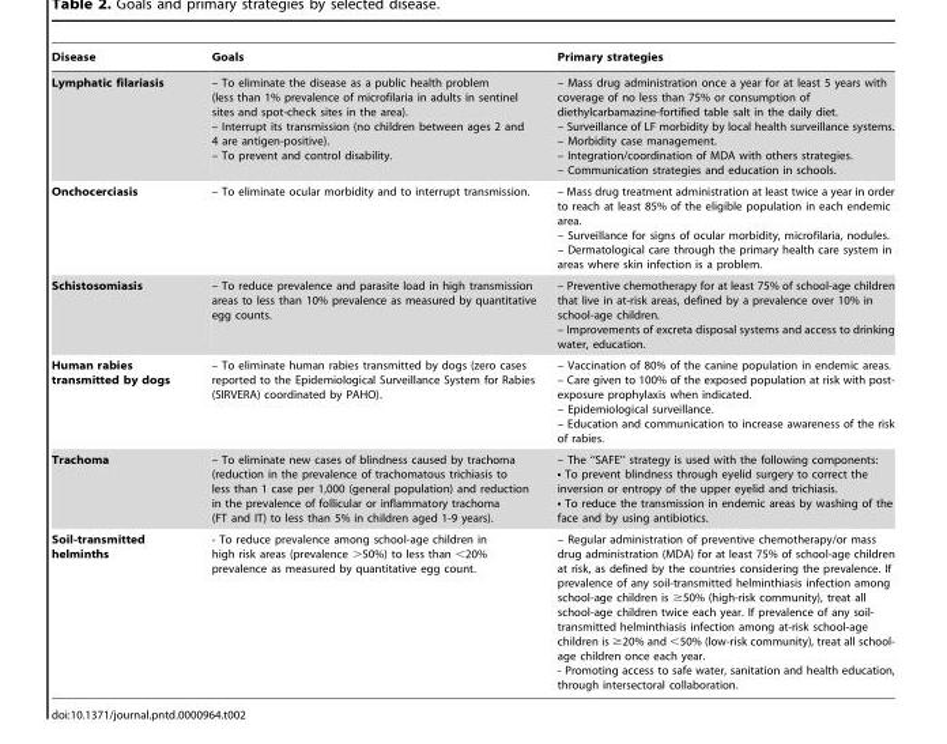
<table><thead><tr><td>Disease</td><td>Goals</td><td>Primary strategies</td></tr></thead><tbody><tr><td>Lymphatic filariasis</td><td>– To eliminate the disease as a public health problem (less than 1% prevalence of microfilaria in adults in sentinel sites and spot-check sites in the area). – Interrupt its transmission (no children between ages 2 and 4 are antigen-positive). – To prevent and control disability.</td><td>– Mass drug administration once a year for at least 5 years with coverage of no less than 75% or consumption of diethylcarbamazine-fortified table salt in the daily diet. – Surveillance of LF morbidity by local health surveillance systems. – Morbidity case management. – Integration/coordination of MDA with others strategies. – Communication strategies and education in schools.</td></tr><tr><td>Onchocerciasis</td><td>– To eliminate ocular morbidity and to interrupt transmission.</td><td>– Mass drug treatment administration at least twice a year in order to reach at least 85% of the eligible population in each endemic area. – Surveillance for signs of ocular morbidity, microfilaria, nodules. – Dermatological care through the primary health care system in areas where skin infection is a problem.</td></tr><tr><td>Schistosomiasis</td><td>– To reduce prevalence and parasite load in high transmission areas to less than 10% prevalence as measured by quantitative egg counts.</td><td>– Preventive chemotherapy for at least 75% of school-age children that live in at-risk areas, defined by a prevalence over 10% in school-age children. – Improvements of excreta disposal systems and access to drinking water, education.</td></tr><tr><td>Human rabies transmitted by dogs</td><td>– To eliminate human rabies transmitted by dogs (zero cases reported to the Epidemiological Surveillance System for Rabies (SIRVERA) coordinated by PAHO).</td><td>– Vaccination of 80% of the canine population in endemic areas. – Care given to 100% of the exposed population at risk with post- exposure prophylaxis when indicated. – Epidemiological surveillance. – Education and communication to increase awareness of the risk of rabies.</td></tr><tr><td>Trachoma</td><td>– To eliminate new cases of blindness caused by trachoma (reduction in the prevalence of trachomatous trichiasis to less than 1 case per 1,000 (general population) and reduction in the prevalence of follicular or inflammatory trachoma (FT and IT) to less than 5% in children aged 1-9 years).</td><td>– The ‘‘SAFE’’ strategy is used with the following components: N To prevent blindness through eyelid surgery to correct the inversion or entropy of the upper eyelid and trichiasis. N To reduce the transmission in endemic areas by washing of the face and by using antibiotics.</td></tr><tr><td>Soil-transmitted helminths</td><td>- To reduce prevalence among school-age children in high risk areas (prevalence &gt;50%) to less than &lt;20% prevalence as measured by quantitative egg count.</td><td>– Regular administration of preventive chemotherapy/or mass drug administration (MDA) for at least 75% of school-age children at risk, as defined by the countries considering the prevalence. If prevalence of any soil-transmitted helminthiasis infection among school-age children is ≥50% (high-risk community), treat all school-age children twice each year. If prevalence of any soil- transmitted helminthiasis infection among at-risk school-age children is ≥20% and &lt;50% (low-risk community), treat all school- age children once each year. - Promoting access to safe water, sanitation and health education, through intersectoral collaboration.</td></tr></tbody></table>